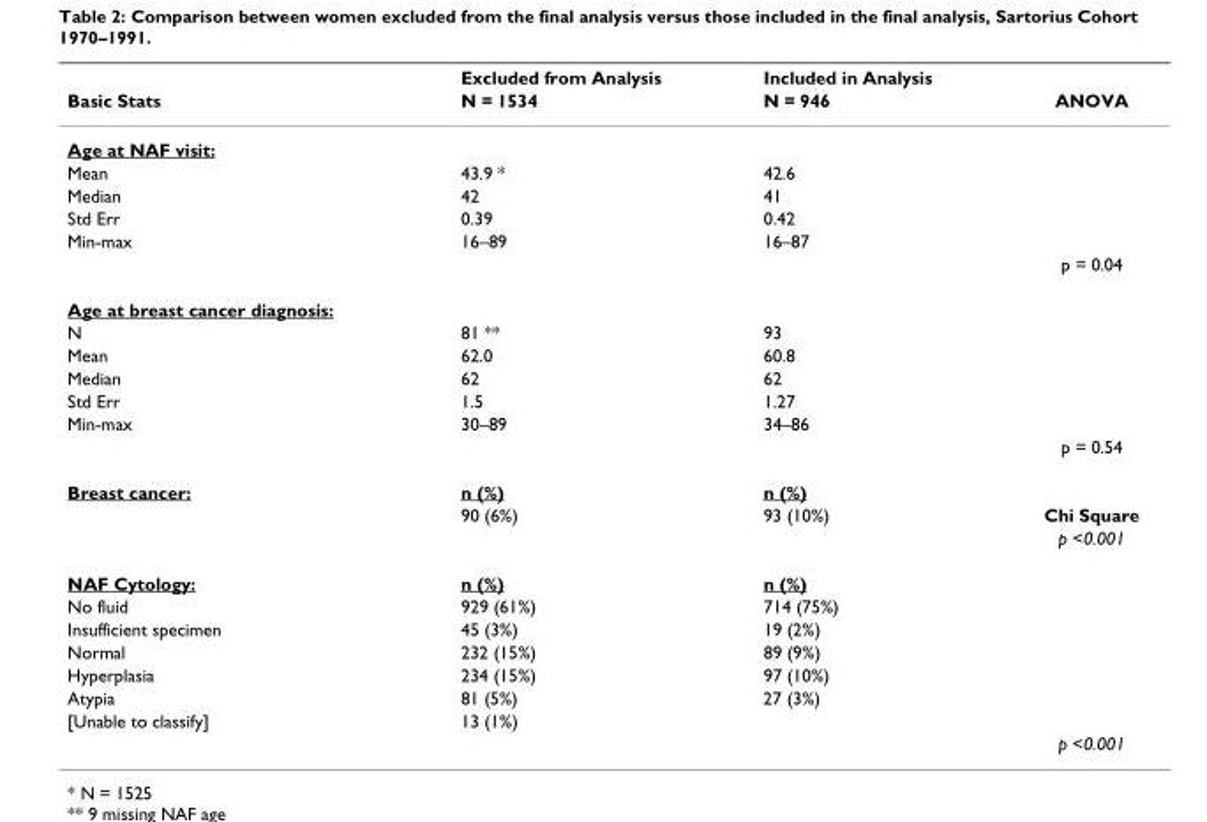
<table><thead><tr><td rowspan="2">Basic Stats</td><td rowspan="2">Excluded from Analysis N = 1534</td><td rowspan="2">Included in Analysis N = 946</td><td rowspan="2">ANOVA</td></tr><tr></tr></thead><tbody><tr><td colspan="4">Age at NAF visit:</td></tr><tr><td>Mean</td><td>43.9 *</td><td>42.6</td><td></td></tr><tr><td>Median</td><td>42</td><td>41</td><td></td></tr><tr><td>Std Err</td><td>0.39</td><td>0.42</td><td></td></tr><tr><td rowspan="2">Min-max</td><td>16–89</td><td>16–87</td><td></td></tr><tr><td></td><td></td><td>p = 0.04</td></tr><tr><td colspan="4">Age at breast cancer diagnosis:</td></tr><tr><td>N</td><td>81 **</td><td>93</td><td></td></tr><tr><td>Mean</td><td>62.0</td><td>60.8</td><td></td></tr><tr><td>Median</td><td>62</td><td>62</td><td></td></tr><tr><td>Std Err</td><td>1.5</td><td>1.27</td><td></td></tr><tr><td rowspan="2">Min-max</td><td>30–89</td><td>34–86</td><td></td></tr><tr><td></td><td></td><td>p = 0.54</td></tr><tr><td rowspan="3">Breast cancer:</td><td>n (%)</td><td>n (%)</td><td></td></tr><tr><td>90 (6%)</td><td>93 (10%)</td><td>Chi Square</td></tr><tr><td></td><td></td><td>p &lt;0.001</td></tr><tr><td>NAF Cytology:</td><td>n (%)</td><td>n (%)</td><td></td></tr><tr><td>No fluid</td><td>929 (61%)</td><td>714 (75%)</td><td></td></tr><tr><td>Insufficient specimen</td><td>45 (3%)</td><td>19 (2%)</td><td></td></tr><tr><td>Normal</td><td>232 (15%)</td><td>89 (9%)</td><td></td></tr><tr><td>Hyperplasia</td><td>234 (15%)</td><td>97 (10%)</td><td></td></tr><tr><td>Atypia</td><td>81 (5%)</td><td>27 (3%)</td><td></td></tr><tr><td rowspan="2">[Unable to classify]</td><td>13 (1%)</td><td></td><td></td></tr><tr><td></td><td></td><td>p &lt;0.001</td></tr></tbody></table>